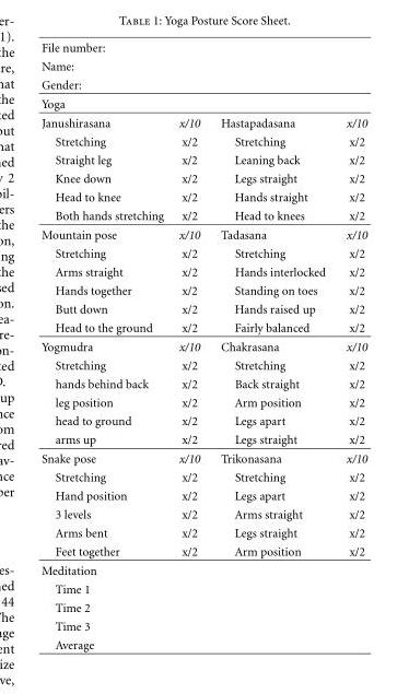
<table><tbody><tr><td colspan="4">File number:</td></tr><tr><td colspan="4">Name:</td></tr><tr><td colspan="4">Gender:</td></tr><tr><td colspan="4">Yoga</td></tr><tr><td>Janushirasana</td><td>x/10</td><td>Hastapadasana</td><td>x/10</td></tr><tr><td>Stretching</td><td>x/2</td><td>Stretching</td><td>x/2</td></tr><tr><td>Straight leg</td><td>x/2</td><td>Leaning back</td><td>x/2</td></tr><tr><td>Knee down</td><td>x/2</td><td>Legs straight</td><td>x/2</td></tr><tr><td>Head to knee</td><td>x/2</td><td>Hands straight</td><td>x/2</td></tr><tr><td>Both hands stretching</td><td>x/2</td><td>Head to knees</td><td>x/2</td></tr><tr><td>Mountain pose</td><td>x/10</td><td>Tadasana</td><td>x/10</td></tr><tr><td>Stretching</td><td>x/2</td><td>Stretching</td><td>x/2</td></tr><tr><td>Arms straight</td><td>x/2</td><td>Hands interlocked</td><td>x/2</td></tr><tr><td>Hands together</td><td>x/2</td><td>Standing on toes</td><td>x/2</td></tr><tr><td>Butt down</td><td>x/2</td><td>Hands raised up</td><td>x/2</td></tr><tr><td>Head to the ground</td><td>x/2</td><td>Fairly balanced</td><td>x/2</td></tr><tr><td>Yogmudra</td><td>x/10</td><td>Chakrasana</td><td>x/10</td></tr><tr><td>Stretching</td><td>x/2</td><td>Stretching</td><td>x/2</td></tr><tr><td>hands behind back</td><td>x/2</td><td>Back straight</td><td>x/2</td></tr><tr><td>leg position</td><td>x/2</td><td>Arm position</td><td>x/2</td></tr><tr><td>head to ground</td><td>x/2</td><td>Legs apart</td><td>x/2</td></tr><tr><td>arms up</td><td>x/2</td><td>Legs straight</td><td>x/2</td></tr><tr><td>Snake pose</td><td>x/10</td><td>Trikonasana</td><td>x/10</td></tr><tr><td>Stretching</td><td>x/2</td><td>Stretching</td><td>x/2</td></tr><tr><td>Hand position</td><td>x/2</td><td>Legs apart</td><td>x/2</td></tr><tr><td>3 levels</td><td>x/2</td><td>Arms straight</td><td>x/2</td></tr><tr><td>Arms bent</td><td>x/2</td><td>Legs straight</td><td>x/2</td></tr><tr><td>Feet together</td><td>x/2</td><td>Arm position</td><td>x/2</td></tr><tr><td colspan="4">Meditation</td></tr><tr><td colspan="4">Time 1</td></tr><tr><td colspan="4">Time 2</td></tr><tr><td colspan="4">Time 3</td></tr><tr><td>Average</td><td></td><td></td><td></td></tr></tbody></table>